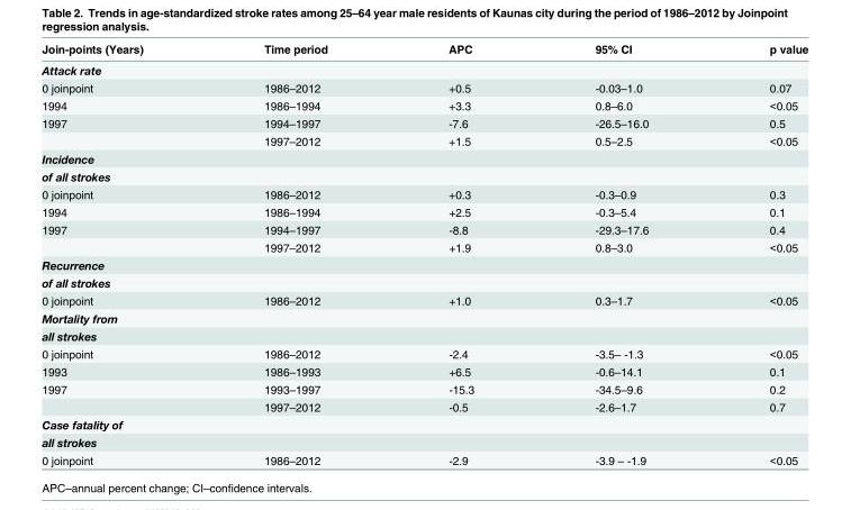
<table><thead><tr><td>Join-points (Years)</td><td>Time period</td><td>APC</td><td>95% CI</td><td>p value</td></tr></thead><tbody><tr><td colspan="5">Attack rate</td></tr><tr><td>0 joinpoint</td><td>1986–2012</td><td>+0.5</td><td>-0.03–1.0</td><td>0.07</td></tr><tr><td>1994</td><td>1986–1994</td><td>+3.3</td><td>0.8–6.0</td><td>&lt;0.05</td></tr><tr><td rowspan="2">1997</td><td>1994–1997</td><td>-7.6</td><td>-26.5–16.0</td><td>0.5</td></tr><tr><td>1997–2012</td><td>+1.5</td><td>0.5–2.5</td><td>&lt;0.05</td></tr><tr><td colspan="5">Incidence</td></tr><tr><td colspan="5">of all strokes</td></tr><tr><td>0 joinpoint</td><td>1986–2012</td><td>+0.3</td><td>-0.3–0.9</td><td>0.3</td></tr><tr><td>1994</td><td>1986–1994</td><td>+2.5</td><td>-0.3–5.4</td><td>0.1</td></tr><tr><td rowspan="2">1997</td><td>1994–1997</td><td>-8.8</td><td>-29.3–17.6</td><td>0.4</td></tr><tr><td>1997–2012</td><td>+1.9</td><td>0.8–3.0</td><td>&lt;0.05</td></tr><tr><td colspan="5">Recurrence</td></tr><tr><td colspan="5">of all strokes</td></tr><tr><td>0 joinpoint</td><td>1986–2012</td><td>+1.0</td><td>0.3–1.7</td><td>&lt;0.05</td></tr><tr><td colspan="5">Mortality from</td></tr><tr><td colspan="5">all strokes</td></tr><tr><td>0 joinpoint</td><td>1986–2012</td><td>-2.4</td><td>-3.5– -1.3</td><td>&lt;0.05</td></tr><tr><td>1993</td><td>1986–1993</td><td>+6.5</td><td>-0.6–14.1</td><td>0.1</td></tr><tr><td rowspan="2">1997</td><td>1993–1997</td><td>-15.3</td><td>-34.5–9.6</td><td>0.2</td></tr><tr><td>1997–2012</td><td>-0.5</td><td>-2.6–1.7</td><td>0.7</td></tr><tr><td colspan="5">Case fatality of</td></tr><tr><td colspan="5">all strokes</td></tr><tr><td>0 joinpoint</td><td>1986–2012</td><td>-2.9</td><td>-3.9 – -1.9</td><td>&lt;0.05</td></tr></tbody></table>